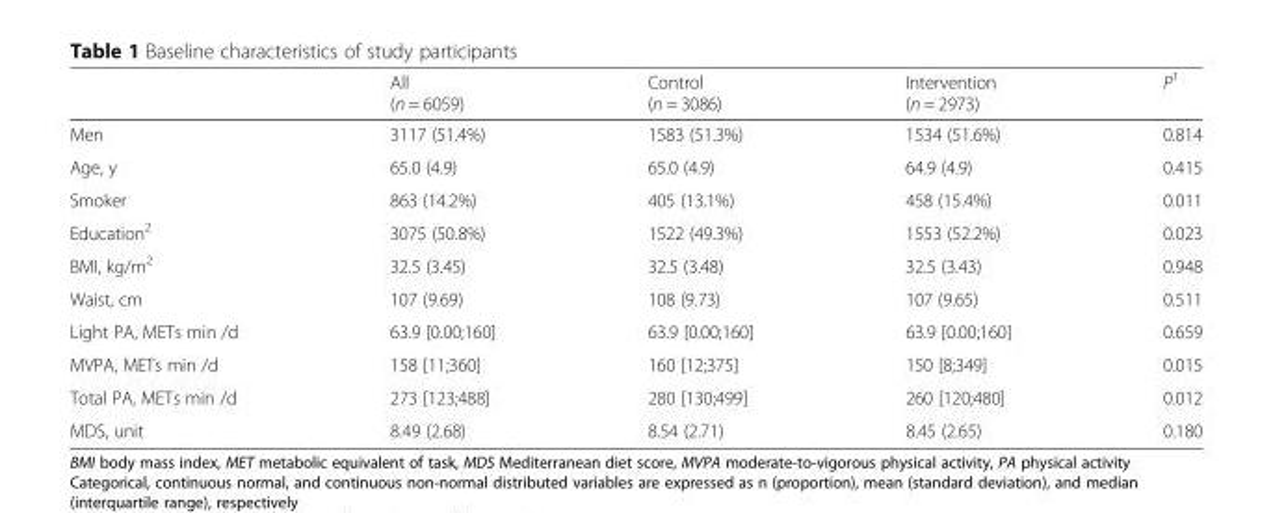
<table><thead><tr><td></td><td>All (n = 6059)</td><td>Control (n = 3086)</td><td>Intervention (n = 2973)</td><td>P<sup>1</sup></td></tr></thead><tbody><tr><td>Men</td><td>3117 (51.4%)</td><td>1583 (51.3%)</td><td>1534 (51.6%)</td><td>0.814</td></tr><tr><td>Age, y</td><td>65.0 (4.9)</td><td>65.0 (4.9)</td><td>64.9 (4.9)</td><td>0.415</td></tr><tr><td>Smoker</td><td>863 (14.2%)</td><td>405 (13.1%)</td><td>458 (15.4%)</td><td>0.011</td></tr><tr><td>Education<sup>2</sup></td><td>3075 (50.8%)</td><td>1522 (49.3%)</td><td>1553 (52.2%)</td><td>0.023</td></tr><tr><td>BMI, kg/m<sup>2</sup></td><td>32.5 (3.45)</td><td>32.5 (3.48)</td><td>32.5 (3.43)</td><td>0.948</td></tr><tr><td>Waist, cm</td><td>107 (9.69)</td><td>108 (9.73)</td><td>107 (9.65)</td><td>0.511</td></tr><tr><td>Light PA, METs min /d</td><td>63.9 [0.00;160]</td><td>63.9 [0.00;160]</td><td>63.9 [0.00;160]</td><td>0.659</td></tr><tr><td>MVPA, METs min /d</td><td>158 [11;360]</td><td>160 [12;375]</td><td>150 [8;349]</td><td>0.015</td></tr><tr><td>Total PA, METs min /d</td><td>273 [123;488]</td><td>280 [130;499]</td><td>260 [120;480]</td><td>0.012</td></tr><tr><td>MDS, unit</td><td>8.49 (2.68)</td><td>8.54 (2.71)</td><td>8.45 (2.65)</td><td>0.180</td></tr></tbody></table>